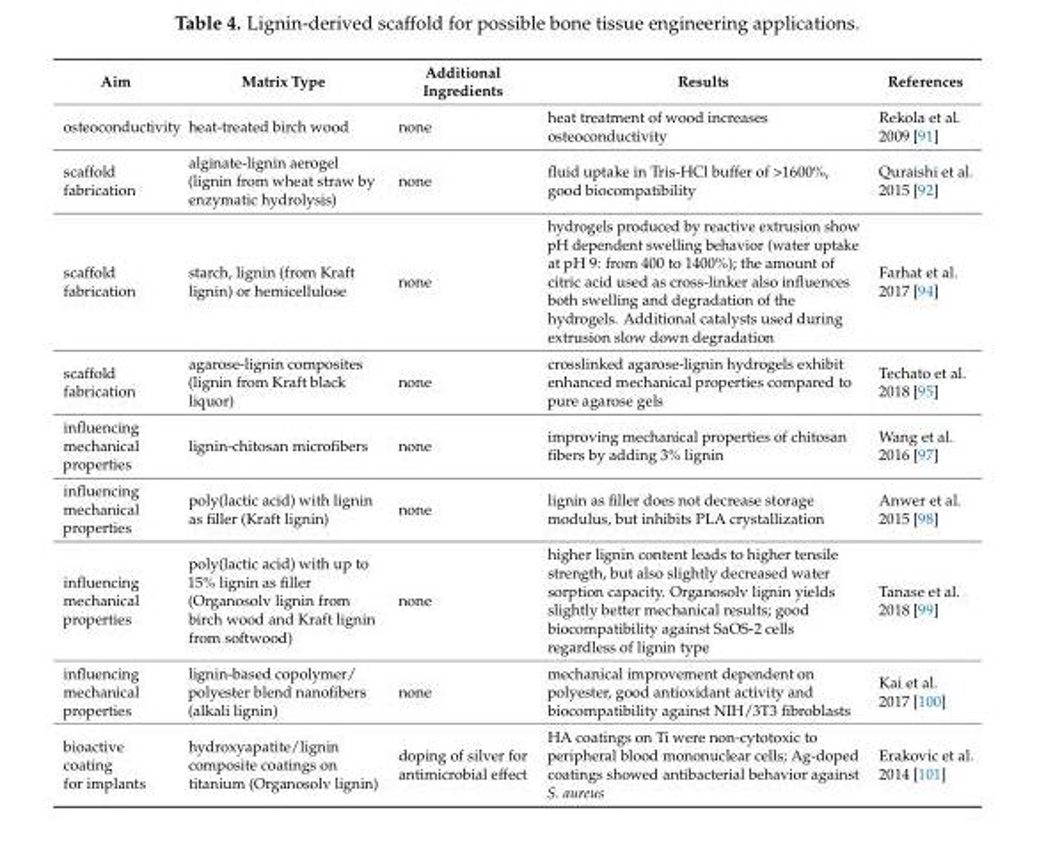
<table><thead><tr><td>Aim</td><td>Matrix Type</td><td>Additional Ingredients</td><td>Results</td><td>References</td></tr></thead><tbody><tr><td>osteoconductivity</td><td>heat-treated birch wood</td><td>none</td><td>heat treatment of wood increases osteoconductivity</td><td>Rekola et al. 2009 [91]</td></tr><tr><td>scaffold fabrication</td><td>alginate-lignin aerogel (lignin from wheat straw by enzymatic hydrolysis)</td><td>none</td><td>fluid uptake in Tris-HCl buffer of &gt;1600%, good biocompatibility</td><td>Quraishi et al. 2015 [92]</td></tr><tr><td>scaffold fabrication</td><td>starch, lignin (from Kraft lignin) or hemicellulose</td><td>none</td><td>hydrogels produced by reactive extrusion show pH dependent swelling behavior (water uptake at pH 9: from 400 to 1400%); the amount of citric acid used as cross-linker also influences both swelling and degradation of the hydrogels. Additional catalysts used during extrusion slow down degradation</td><td>Farhat et al. 2017 [94]</td></tr><tr><td>scaffold fabrication</td><td>agarose-lignin composites (lignin from Kraft black liquor)</td><td>none</td><td>crosslinked agarose-lignin hydrogels exhibit enhanced mechanical properties compared to pure agarose gels</td><td>Techato et al. 2018 [95]</td></tr><tr><td>influencing mechanical properties</td><td>lignin-chitosan microfibers</td><td>none</td><td>improving mechanical properties of chitosan fibers by adding 3% lignin</td><td>Wang et al. 2016 [97]</td></tr><tr><td>influencing mechanical properties</td><td>poly(lactic acid) with lignin as filler (Kraft lignin)</td><td>none</td><td>lignin as filler does not decrease storage modulus, but inhibits PLA crystallization</td><td>Anwer et al. 2015 [98]</td></tr><tr><td>influencing mechanical properties</td><td>poly(lactic acid) with up to 15% lignin as filler (Organosolv lignin from birch wood and Kraft lignin from softwood)</td><td>none</td><td>higher lignin content leads to higher tensile strength, but also slightly decreased water sorption capacity. Organosolv lignin yields slightly better mechanical results; good biocompatibility against SaOS-2 cells regardless of lignin type</td><td>Tanase et al. 2018 [99]</td></tr><tr><td>influencing mechanical properties</td><td>lignin-based copolymer/ polyester blend nanofibers (alkali lignin)</td><td>none</td><td>mechanical improvement dependent on polyester, good antioxidant activity and biocompatibility against NIH/3T3 fibroblasts</td><td>Kai et al. 2017 [100]</td></tr><tr><td>bioactive coating for implants</td><td>hydroxyapatite/lignin composite coatings on titanium (Organosolv lignin)</td><td>doping of silver for antimicrobial effect</td><td>HA coatings on Ti were non-cytotoxic to peripheral blood mononuclear cells; Ag-doped coatings showed antibacterial behavior against S. aureus</td><td>Erakovic et al. 2014 [101]</td></tr></tbody></table>